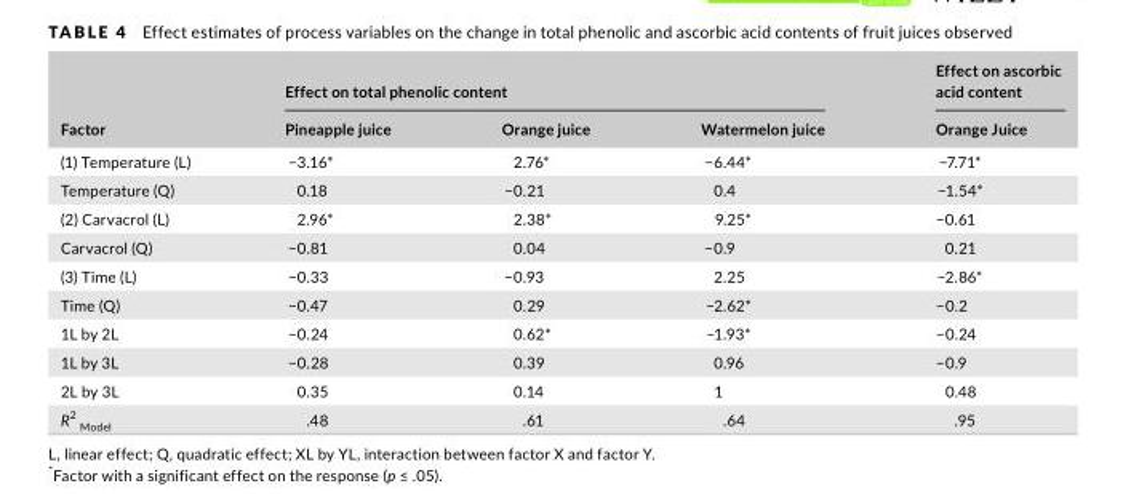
<table><thead><tr><td rowspan="2">Factor</td><td colspan="3">Effect on total phenolic content</td><td rowspan="2">Effect on ascorbic acid content Orange Juice</td></tr><tr><td>Pineapple juice</td><td>Orange juice</td><td>Watermelon juice</td></tr></thead><tbody><tr><td>(1) Temperature (L)</td><td>−3.16*</td><td>2.76*</td><td>−6.44*</td><td>−7.71*</td></tr><tr><td>Temperature (Q)</td><td>0.18</td><td>−0.21</td><td>0.4</td><td>−1.54*</td></tr><tr><td>(2) Carvacrol (L)</td><td>2.96*</td><td>2.38*</td><td>9.25*</td><td>−0.61</td></tr><tr><td>Carvacrol (Q)</td><td>−0.81</td><td>0.04</td><td>−0.9</td><td>0.21</td></tr><tr><td>(3) Time (L)</td><td>−0.33</td><td>−0.93</td><td>2.25</td><td>−2.86*</td></tr><tr><td>Time (Q)</td><td>−0.47</td><td>0.29</td><td>−2.62*</td><td>−0.2</td></tr><tr><td>1L by 2L</td><td>−0.24</td><td>0.62*</td><td>−1.93*</td><td>−0.24</td></tr><tr><td>1L by 3L</td><td>−0.28</td><td>0.39</td><td>0.96</td><td>−0.9</td></tr><tr><td>2L by 3L</td><td>0.35</td><td>0.14</td><td>1</td><td>0.48</td></tr><tr><td>R<sup>2</sup> <sub>Model</sub></td><td>.48</td><td>.61</td><td>.64</td><td>.95</td></tr></tbody></table>